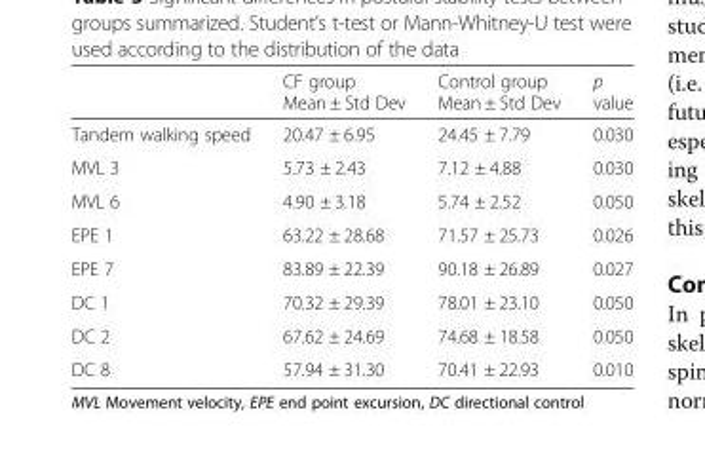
<table><thead><tr><td></td><td>CF group Mean ± Std Dev</td><td>Control group Mean ± Std Dev</td><td>p value</td></tr></thead><tbody><tr><td>Tandem walking speed</td><td>20.47 ± 6.95</td><td>24.45 ± 7.79</td><td>0.030</td></tr><tr><td>MVL 3</td><td>5.73 ± 2.43</td><td>7.12 ± 4.88</td><td>0.030</td></tr><tr><td>MVL 6</td><td>4.90 ± 3.18</td><td>5.74 ± 2.52</td><td>0.050</td></tr><tr><td>EPE 1</td><td>63.22 ± 28.68</td><td>71.57 ± 25.73</td><td>0.026</td></tr><tr><td>EPE 7</td><td>83.89 ± 22.39</td><td>90.18 ± 26.89</td><td>0.027</td></tr><tr><td>DC 1</td><td>70.32 ± 29.39</td><td>78.01 ± 23.10</td><td>0.050</td></tr><tr><td>DC 2</td><td>67.62 ± 24.69</td><td>74.68 ± 18.58</td><td>0.050</td></tr><tr><td>DC 8</td><td>57.94 ± 31.30</td><td>70.41 ± 22.93</td><td>0.010</td></tr></tbody></table>